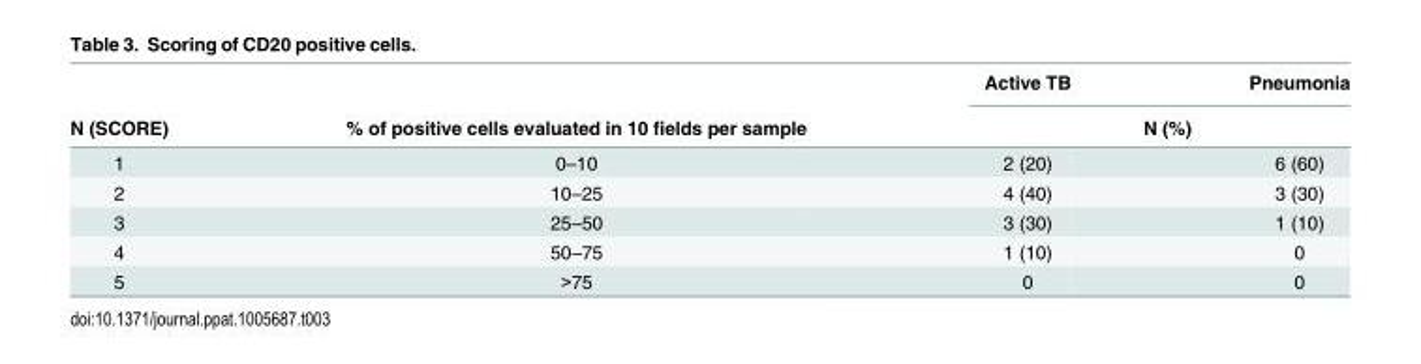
<table><thead><tr><td rowspan="2">N (SCORE)</td><td rowspan="2">% of positive cells evaluated in 10 fields per sample</td><td>Active TB</td><td>Pneumonia</td></tr><tr><td colspan="2">N (%)</td></tr></thead><tbody><tr><td>1</td><td>0–10</td><td>2 (20)</td><td>6 (60)</td></tr><tr><td>2</td><td>10–25</td><td>4 (40)</td><td>3 (30)</td></tr><tr><td>3</td><td>25–50</td><td>3 (30)</td><td>1 (10)</td></tr><tr><td>4</td><td>50–75</td><td>1 (10)</td><td>0</td></tr><tr><td>5</td><td>&gt;75</td><td>0</td><td>0</td></tr></tbody></table>